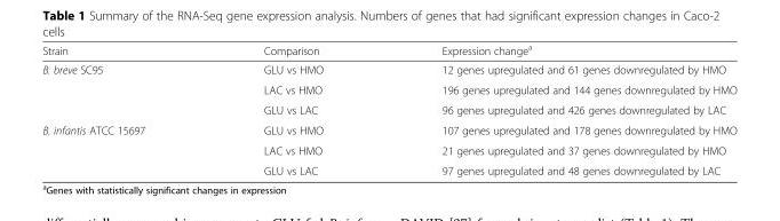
<table><thead><tr><td>Strain</td><td>Comparison</td><td>Expression change<sup>a</sup></td></tr></thead><tbody><tr><td rowspan="3">B. breve SC95</td><td>GLU vs HMO</td><td>12 genes upregulated and 61 genes downregulated by HMO</td></tr><tr><td>LAC vs HMO</td><td>196 genes upregulated and 144 genes downregulated by HMO</td></tr><tr><td>GLU vs LAC</td><td>96 genes upregulated and 426 genes downregulated by LAC</td></tr><tr><td rowspan="3">B. infantis ATCC 15697</td><td>GLU vs HMO</td><td>107 genes upregulated and 178 genes downregulated by HMO</td></tr><tr><td>LAC vs HMO</td><td>21 genes upregulated and 37 genes downregulated by HMO</td></tr><tr><td>GLU vs LAC</td><td>97 genes upregulated and 48 genes downregulated by LAC</td></tr></tbody></table>